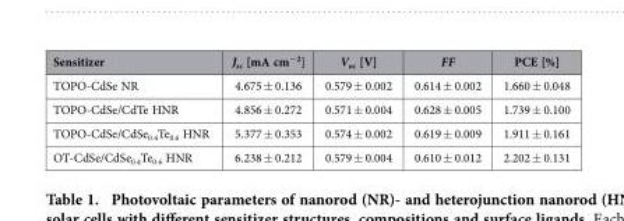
<table><thead><tr><td>Sensitizer</td><td>J<sub>sc</sub> [mA cm<sup>−2</sup>]</td><td>V<sub>oc</sub> [V]</td><td>FF</td><td>PCE [%]</td></tr></thead><tbody><tr><td>TOPO-CdSe NR</td><td>4.675 ± 0.136</td><td>0.579 ± 0.002</td><td>0.614 ± 0.002</td><td>1.660 ± 0.048</td></tr><tr><td>TOPO-CdSe/CdTe HNR</td><td>4.856 ± 0.272</td><td>0.571 ± 0.004</td><td>0.628 ± 0.005</td><td>1.739 ± 0.100</td></tr><tr><td>TOPO-CdSe/CdSe<sub>0.4</sub>Te<sub>0.6</sub> HNR</td><td>5.377 ± 0.353</td><td>0.574 ± 0.002</td><td>0.619 ± 0.009</td><td>1.911 ± 0.161</td></tr><tr><td>OT-CdSe/CdSe<sub>0.4</sub>Te<sub>0.6</sub> HNR</td><td>6.238 ± 0.212</td><td>0.579 ± 0.004</td><td>0.610 ± 0.012</td><td>2.202 ± 0.131</td></tr></tbody></table>